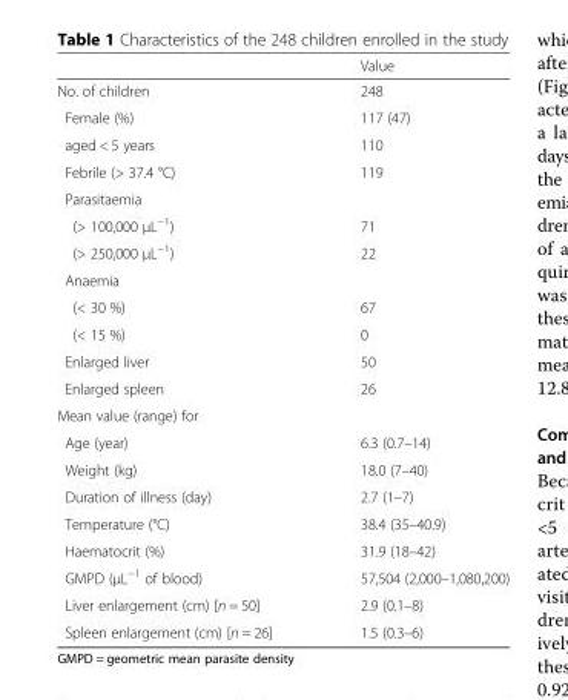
<table><thead><tr><td></td><td>Value</td></tr></thead><tbody><tr><td>No. of children</td><td>248</td></tr><tr><td>Female (%)</td><td>117 (47)</td></tr><tr><td>aged &lt; 5 years</td><td>110</td></tr><tr><td>Febrile (&gt; 37.4 °C)</td><td>119</td></tr><tr><td colspan="2">Parasitaemia</td></tr><tr><td>(&gt; 100,000 μL<sup>−1</sup>)</td><td>71</td></tr><tr><td>(&gt; 250,000 μL<sup>−1</sup>)</td><td>22</td></tr><tr><td colspan="2">Anaemia</td></tr><tr><td>(&lt; 30 %)</td><td>67</td></tr><tr><td>(&lt; 15 %)</td><td>0</td></tr><tr><td>Enlarged liver</td><td>50</td></tr><tr><td>Enlarged spleen</td><td>26</td></tr><tr><td colspan="2">Mean value (range) for</td></tr><tr><td>Age (year)</td><td>6.3 (0.7–14)</td></tr><tr><td>Weight (kg)</td><td>18.0 (7–40)</td></tr><tr><td>Duration of illness (day)</td><td>2.7 (1–7)</td></tr><tr><td>Temperature (°C)</td><td>38.4 (35–40.9)</td></tr><tr><td>Haematocrit (%)</td><td>31.9 (18–42)</td></tr><tr><td>GMPD (μL<sup>−1</sup> of blood)</td><td>57,504 (2,000–1,080,200)</td></tr><tr><td>Liver enlargement (cm) [n = 50]</td><td>2.9 (0.1–8)</td></tr><tr><td>Spleen enlargement (cm) [n = 26]</td><td>1.5 (0.3–6)</td></tr></tbody></table>